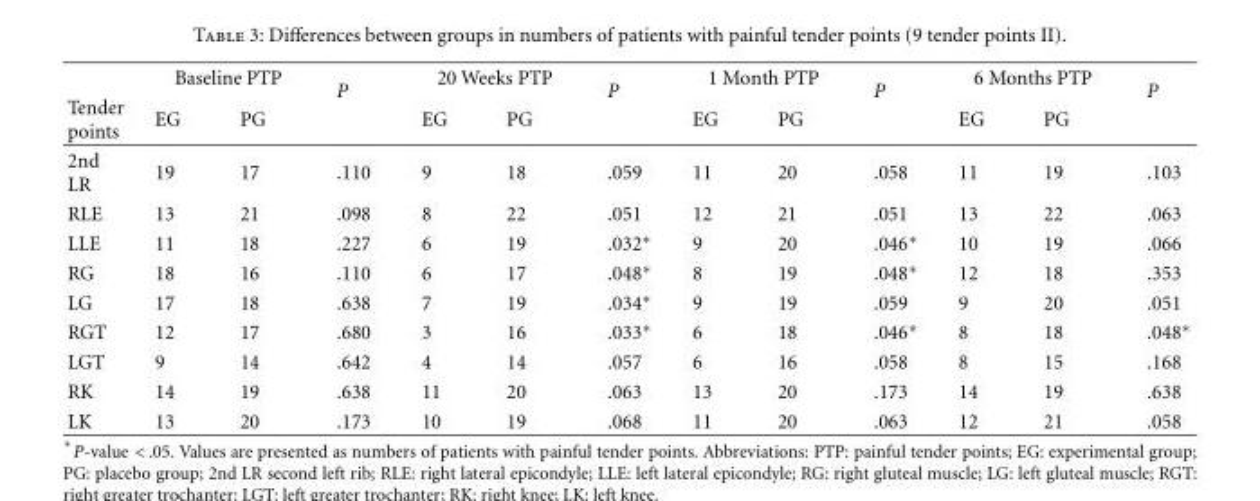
<table><thead><tr><td rowspan="2">Tender points</td><td colspan="2">Baseline PTP</td><td rowspan="2">P</td><td colspan="2">20 Weeks PTP</td><td rowspan="2">P</td><td colspan="2">1 Month PTP</td><td rowspan="2">P</td><td colspan="2">6 Months PTP</td><td rowspan="2">P</td></tr><tr><td>EG</td><td>PG</td><td>EG</td><td>PG</td><td>EG</td><td>PG</td><td>EG</td><td>PG</td></tr></thead><tbody><tr><td>2nd LR</td><td>19</td><td>17</td><td>.110</td><td>9</td><td>18</td><td>.059</td><td>11</td><td>20</td><td>.058</td><td>11</td><td>19</td><td>.103</td></tr><tr><td>RLE</td><td>13</td><td>21</td><td>.098</td><td>8</td><td>22</td><td>.051</td><td>12</td><td>21</td><td>.051</td><td>13</td><td>22</td><td>.063</td></tr><tr><td>LLE</td><td>11</td><td>18</td><td>.227</td><td>6</td><td>19</td><td>.032∗</td><td>9</td><td>20</td><td>.046∗</td><td>10</td><td>19</td><td>.066</td></tr><tr><td>RG</td><td>18</td><td>16</td><td>.110</td><td>6</td><td>17</td><td>.048∗</td><td>8</td><td>19</td><td>.048∗</td><td>12</td><td>18</td><td>.353</td></tr><tr><td>LG</td><td>17</td><td>18</td><td>.638</td><td>7</td><td>19</td><td>.034∗</td><td>9</td><td>19</td><td>.059</td><td>9</td><td>20</td><td>.051</td></tr><tr><td>RGT</td><td>12</td><td>17</td><td>.680</td><td>3</td><td>16</td><td>.033∗</td><td>6</td><td>18</td><td>.046∗</td><td>8</td><td>18</td><td>.048∗</td></tr><tr><td>LGT</td><td>9</td><td>14</td><td>.642</td><td>4</td><td>14</td><td>.057</td><td>6</td><td>16</td><td>.058</td><td>8</td><td>15</td><td>.168</td></tr><tr><td>RK</td><td>14</td><td>19</td><td>.638</td><td>11</td><td>20</td><td>.063</td><td>13</td><td>20</td><td>.173</td><td>14</td><td>19</td><td>.638</td></tr><tr><td>LK</td><td>13</td><td>20</td><td>.173</td><td>10</td><td>19</td><td>.068</td><td>11</td><td>20</td><td>.063</td><td>12</td><td>21</td><td>.058</td></tr></tbody></table>